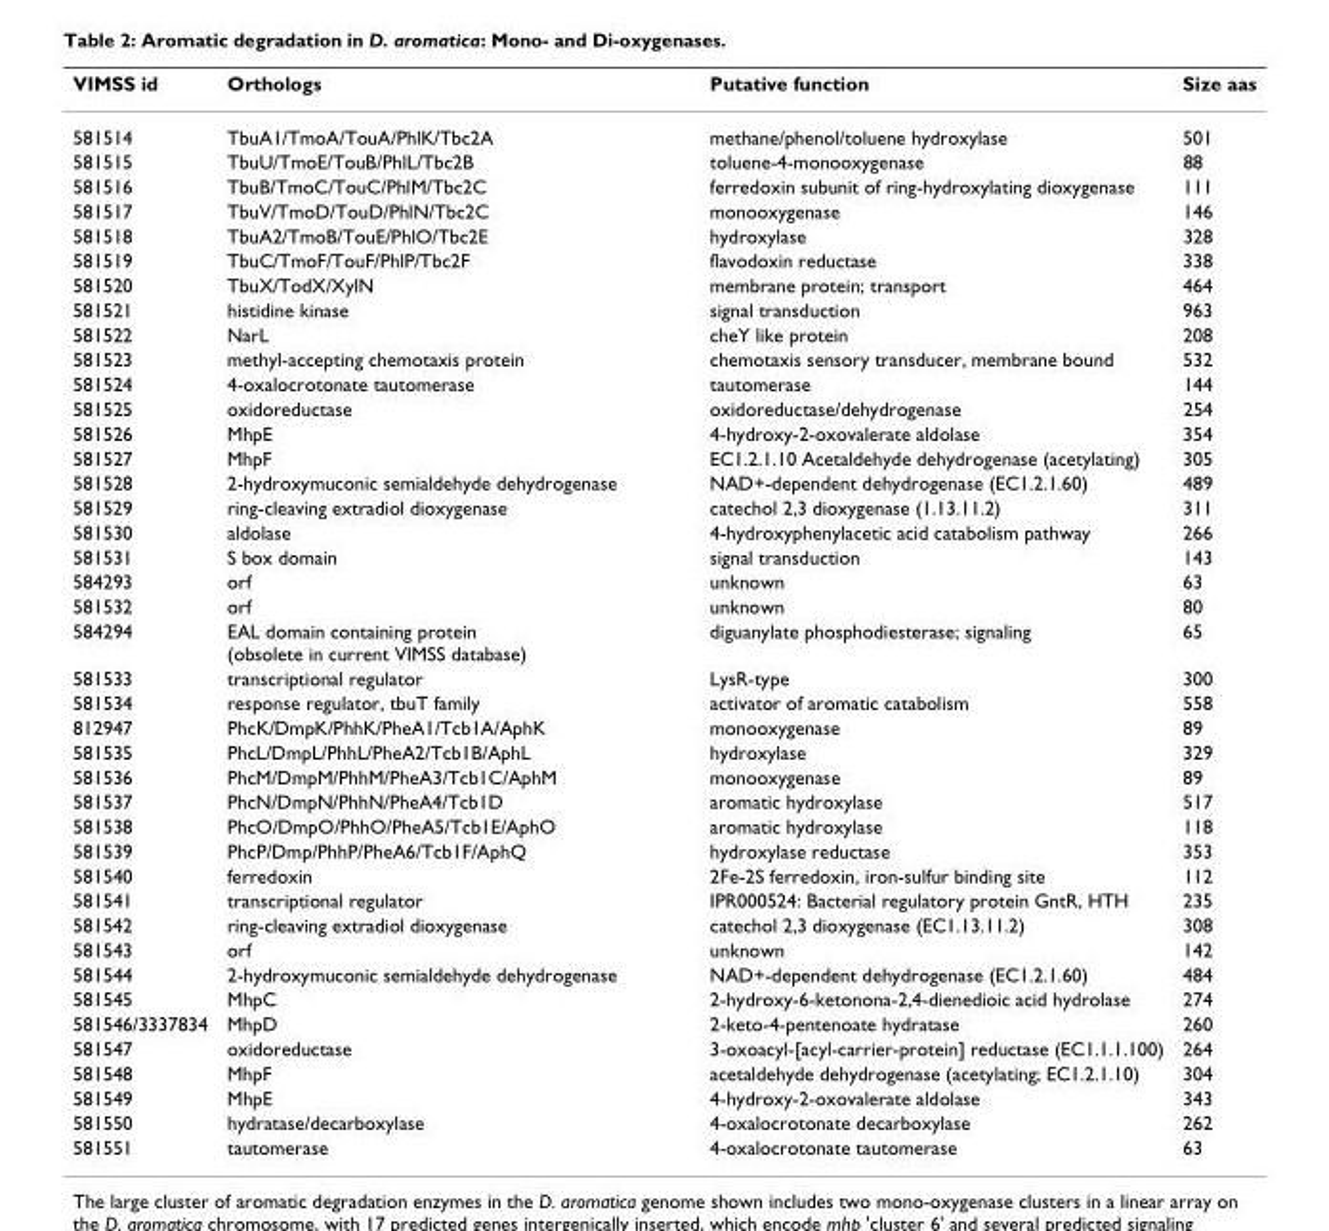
<table><thead><tr><td>VIMSS id</td><td>Orthologs</td><td>Putative function</td><td>Size aas</td></tr></thead><tbody><tr><td>581514</td><td>TbuA1/TmoA/TouA/PhlK/Tbc2A</td><td>methane/phenol/toluene hydroxylase</td><td>501</td></tr><tr><td>581515</td><td>TbuU/TmoE/TouB/PhlL/Tbc2B</td><td>toluene-4-monooxygenase</td><td>88</td></tr><tr><td>581516</td><td>TbuB/TmoC/TouC/PhlM/Tbc2C</td><td>ferredoxin subunit of ring-hydroxylating dioxygenase</td><td>111</td></tr><tr><td>581517</td><td>TbuV/TmoD/TouD/PhlN/Tbc2C</td><td>monooxygenase</td><td>146</td></tr><tr><td>581518</td><td>TbuA2/TmoB/TouE/PhlO/Tbc2E</td><td>hydroxylase</td><td>328</td></tr><tr><td>581519</td><td>TbuC/TmoF/TouF/PhlP/Tbc2F</td><td>flavodoxin reductase</td><td>338</td></tr><tr><td>581520</td><td>TbuX/TodX/XylN</td><td>membrane protein; transport</td><td>464</td></tr><tr><td>581521</td><td>histidine kinase</td><td>signal transduction</td><td>963</td></tr><tr><td>581522</td><td>NarL</td><td>cheY like protein</td><td>208</td></tr><tr><td>581523</td><td>methyl-accepting chemotaxis protein</td><td>chemotaxis sensory transducer, membrane bound</td><td>532</td></tr><tr><td>581524</td><td>4-oxalocrotonate tautomerase</td><td>tautomerase</td><td>144</td></tr><tr><td>581525</td><td>oxidoreductase</td><td>oxidoreductase/dehydrogenase</td><td>254</td></tr><tr><td>581526</td><td>MhpE</td><td>4-hydroxy-2-oxovalerate aldolase</td><td>354</td></tr><tr><td>581527</td><td>MhpF</td><td>EC1.2.1.10 Acetaldehyde dehydrogenase (acetylating)</td><td>305</td></tr><tr><td>581528</td><td>2-hydroxymuconic semialdehyde dehydrogenase</td><td>NAD+-dependent dehydrogenase (EC1.2.1.60)</td><td>489</td></tr><tr><td>581529</td><td>ring-cleaving extradiol dioxygenase</td><td>catechol 2,3 dioxygenase (1.13.11.2)</td><td>311</td></tr><tr><td>581530</td><td>aldolase</td><td>4-hydroxyphenylacetic acid catabolism pathway</td><td>266</td></tr><tr><td>581531</td><td>S box domain</td><td>signal transduction</td><td>143</td></tr><tr><td>584293</td><td>orf</td><td>unknown</td><td>63</td></tr><tr><td>581532</td><td>orf</td><td>unknown</td><td>80</td></tr><tr><td>584294</td><td>EAL domain containing protein (obsolete in current VIMSS database)</td><td>diguanylate phosphodiesterase; signaling</td><td>65</td></tr><tr><td>581533</td><td>transcriptional regulator</td><td>LysR-type</td><td>300</td></tr><tr><td>581534</td><td>response regulator, tbuT family</td><td>activator of aromatic catabolism</td><td>558</td></tr><tr><td>812947</td><td>PhcK/DmpK/PhhK/PheA1/Tcb1A/AphK</td><td>monooxygenase</td><td>89</td></tr><tr><td>581535</td><td>PhcL/DmpL/PhhL/PheA2/Tcb1B/AphL</td><td>hydroxylase</td><td>329</td></tr><tr><td>581536</td><td>PhcM/DmpM/PhhM/PheA3/Tcb1C/AphM</td><td>monooxygenase</td><td>89</td></tr><tr><td>581537</td><td>PhcN/DmpN/PhhN/PheA4/Tcb1D</td><td>aromatic hydroxylase</td><td>517</td></tr><tr><td>581538</td><td>PhcO/DmpO/PhhO/PheA5/Tcb1E/AphO</td><td>aromatic hydroxylase</td><td>118</td></tr><tr><td>581539</td><td>PhcP/Dmp/PhhP/PheA6/Tcb1F/AphQ</td><td>hydroxylase reductase</td><td>353</td></tr><tr><td>581540</td><td>ferredoxin</td><td>2Fe-2S ferredoxin, iron-sulfur binding site</td><td>112</td></tr><tr><td>581541</td><td>transcriptional regulator</td><td>IPR000524: Bacterial regulatory protein GntR, HTH</td><td>235</td></tr><tr><td>581542</td><td>ring-cleaving extradiol dioxygenase</td><td>catechol 2,3 dioxygenase (EC1.13.11.2)</td><td>308</td></tr><tr><td>581543</td><td>orf</td><td>unknown</td><td>142</td></tr><tr><td>581544</td><td>2-hydroxymuconic semialdehyde dehydrogenase</td><td>NAD+-dependent dehydrogenase (EC1.2.1.60)</td><td>484</td></tr><tr><td>581545</td><td>MhpC</td><td>2-hydroxy-6-ketonona-2,4-dienedioic acid hydrolase</td><td>274</td></tr><tr><td>581546/3337834</td><td>MhpD</td><td>2-keto-4-pentenoate hydratase</td><td>260</td></tr><tr><td>581547</td><td>oxidoreductase</td><td>3-oxoacyl-[acyl-carrier-protein] reductase (EC1.1.1.100)</td><td>264</td></tr><tr><td>581548</td><td>MhpF</td><td>acetaldehyde dehydrogenase (acetylating; EC1.2.1.10)</td><td>304</td></tr><tr><td>581549</td><td>MhpE</td><td>4-hydroxy-2-oxovalerate aldolase</td><td>343</td></tr><tr><td>581550</td><td>hydratase/decarboxylase</td><td>4-oxalocrotonate decarboxylase</td><td>262</td></tr><tr><td>581551</td><td>tautomerase</td><td>4-oxalocrotonate tautomerase</td><td>63</td></tr></tbody></table>